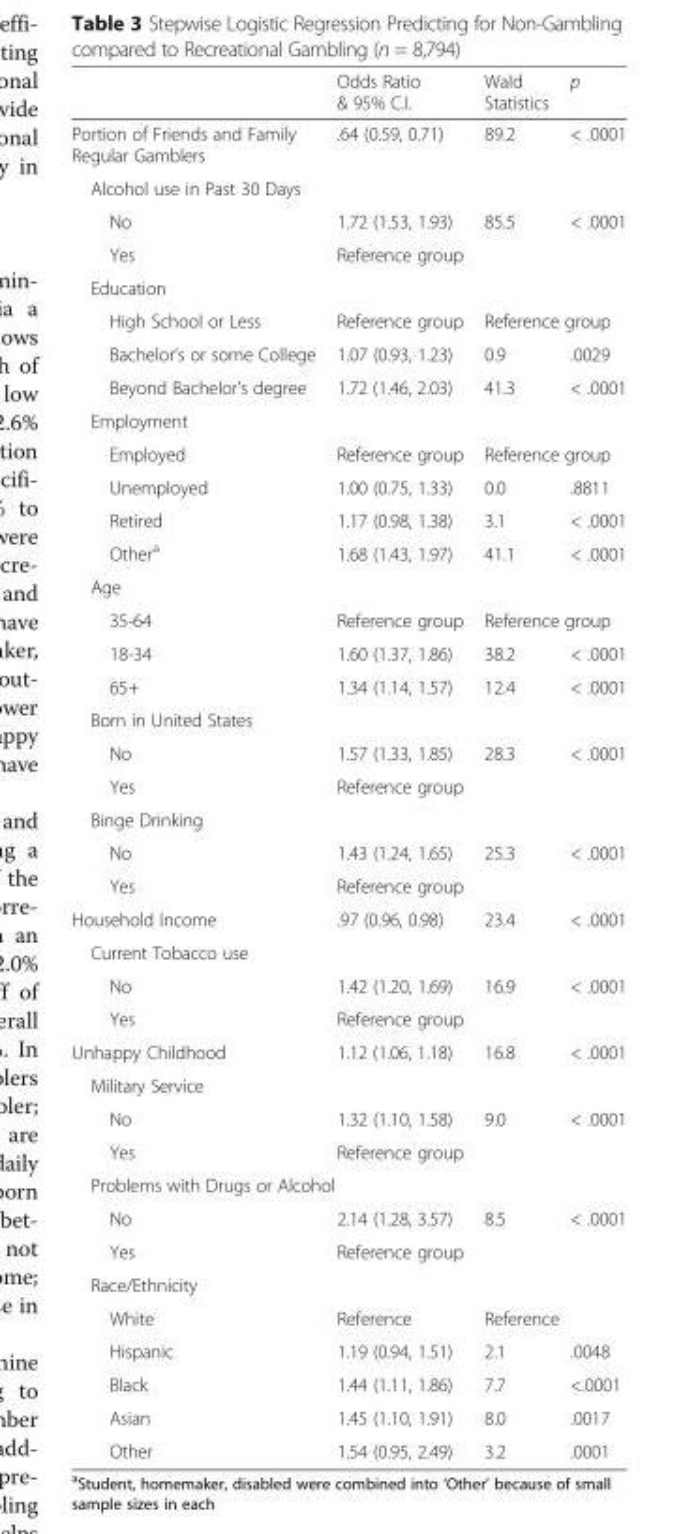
<table><thead><tr><td></td><td>Odds Ratio &amp; 95% C.I.</td><td>Wald Statistics</td><td>p</td></tr></thead><tbody><tr><td>Portion of Friends and Family Regular Gamblers</td><td>.64 (0.59, 0.71)</td><td>89.2</td><td>&lt; .0001</td></tr><tr><td colspan="4">Alcohol use in Past 30 Days</td></tr><tr><td>No</td><td>1.72 (1.53, 1.93)</td><td rowspan="2">85.5</td><td rowspan="2">&lt; .0001</td></tr><tr><td>Yes</td><td>Reference group</td></tr><tr><td colspan="4">Education</td></tr><tr><td>High School or Less</td><td>Reference group</td><td colspan="2">Reference group</td></tr><tr><td>Bachelor’s or some College</td><td>1.07 (0.93, 1.23)</td><td>0.9</td><td>.0029</td></tr><tr><td>Beyond Bachelor’s degree</td><td>1.72 (1.46, 2.03)</td><td>41.3</td><td>&lt; .0001</td></tr><tr><td colspan="4">Employment</td></tr><tr><td>Employed</td><td>Reference group</td><td colspan="2">Reference group</td></tr><tr><td>Unemployed</td><td>1.00 (0.75, 1.33)</td><td>0.0</td><td>.8811</td></tr><tr><td>Retired</td><td>1.17 (0.98, 1.38)</td><td>3.1</td><td>&lt; .0001</td></tr><tr><td>Other<sup>a</sup></td><td>1.68 (1.43, 1.97)</td><td>41.1</td><td>&lt; .0001</td></tr><tr><td colspan="4">Age</td></tr><tr><td>35-64</td><td>Reference group</td><td colspan="2">Reference group</td></tr><tr><td>18-34</td><td>1.60 (1.37, 1.86)</td><td>38.2</td><td>&lt; .0001</td></tr><tr><td>65+</td><td>1.34 (1.14, 1.57)</td><td>12.4</td><td>&lt; .0001</td></tr><tr><td colspan="4">Born in United States</td></tr><tr><td>No</td><td>1.57 (1.33, 1.85)</td><td rowspan="2">28.3</td><td rowspan="2">&lt; .0001</td></tr><tr><td>Yes</td><td>Reference group</td></tr><tr><td colspan="4">Binge Drinking</td></tr><tr><td>No</td><td>1.43 (1.24, 1.65)</td><td rowspan="2">25.3</td><td rowspan="2">&lt; .0001</td></tr><tr><td>Yes</td><td>Reference group</td></tr><tr><td>Household Income</td><td>.97 (0.96, 0.98)</td><td>23.4</td><td>&lt; .0001</td></tr><tr><td colspan="4">Current Tobacco use</td></tr><tr><td>No</td><td>1.42 (1.20, 1.69)</td><td rowspan="2">16.9</td><td rowspan="2">&lt; .0001</td></tr><tr><td>Yes</td><td>Reference group</td></tr><tr><td>Unhappy Childhood</td><td>1.12 (1.06, 1.18)</td><td>16.8</td><td>&lt; .0001</td></tr><tr><td colspan="4">Military Service</td></tr><tr><td>No</td><td>1.32 (1.10, 1.58)</td><td rowspan="2">9.0</td><td rowspan="2">&lt; .0001</td></tr><tr><td>Yes</td><td>Reference group</td></tr><tr><td colspan="4">Problems with Drugs or Alcohol</td></tr><tr><td>No</td><td>2.14 (1.28, 3.57)</td><td rowspan="2">8.5</td><td rowspan="2">&lt; .0001</td></tr><tr><td>Yes</td><td>Reference group</td></tr><tr><td colspan="4">Race/Ethnicity</td></tr><tr><td>White</td><td>Reference</td><td colspan="2">Reference</td></tr><tr><td>Hispanic</td><td>1.19 (0.94, 1.51)</td><td>2.1</td><td>.0048</td></tr><tr><td>Black</td><td>1.44 (1.11, 1.86)</td><td>7.7</td><td>&lt;.0001</td></tr><tr><td>Asian</td><td>1.45 (1.10, 1.91)</td><td>8.0</td><td>.0017</td></tr><tr><td>Other</td><td>1.54 (0.95, 2.49)</td><td>3.2</td><td>.0001</td></tr></tbody></table>